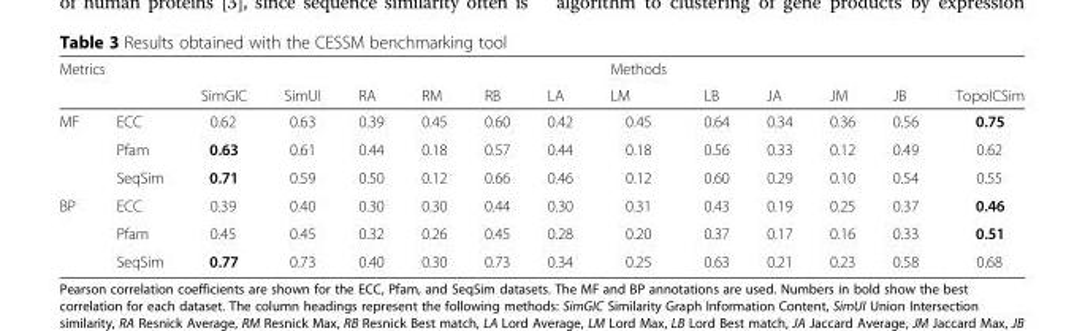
<table><thead><tr><td rowspan="2" colspan="2">Metrics</td><td rowspan="3">SimGIC 0.62</td><td rowspan="3">SimUI 0.63</td><td rowspan="3">RA 0.39</td><td rowspan="3">RM 0.45</td><td rowspan="3">RB 0.60</td><td rowspan="3">LA 0.42</td><td rowspan="3">Methods LM 0.45</td><td rowspan="3">LB 0.64</td><td rowspan="3">JA 0.34</td><td rowspan="3">JM 0.36</td><td rowspan="3">JB 0.56</td><td rowspan="3">TopoICSim 0.75</td></tr><tr></tr><tr><td>MF</td><td>ECC</td></tr></thead><tbody><tr><td></td><td>Pfam</td><td>0.63</td><td>0.61</td><td>0.44</td><td>0.18</td><td>0.57</td><td>0.44</td><td>0.18</td><td>0.56</td><td>0.33</td><td>0.12</td><td>0.49</td><td>0.62</td></tr><tr><td></td><td>SeqSim</td><td>0.71</td><td>0.59</td><td>0.50</td><td>0.12</td><td>0.66</td><td>0.46</td><td>0.12</td><td>0.60</td><td>0.29</td><td>0.10</td><td>0.54</td><td>0.55</td></tr><tr><td rowspan="3">BP</td><td>ECC</td><td>0.39</td><td>0.40</td><td>0.30</td><td>0.30</td><td>0.44</td><td>0.30</td><td>0.31</td><td>0.43</td><td>0.19</td><td>0.25</td><td>0.37</td><td>0.46</td></tr><tr><td>Pfam</td><td>0.45</td><td>0.45</td><td>0.32</td><td>0.26</td><td>0.45</td><td>0.28</td><td>0.20</td><td>0.37</td><td>0.17</td><td>0.16</td><td>0.33</td><td>0.51</td></tr><tr><td>SeqSim</td><td>0.77</td><td>0.73</td><td>0.40</td><td>0.30</td><td>0.73</td><td>0.34</td><td>0.25</td><td>0.63</td><td>0.21</td><td>0.23</td><td>0.58</td><td>0.68</td></tr></tbody></table>